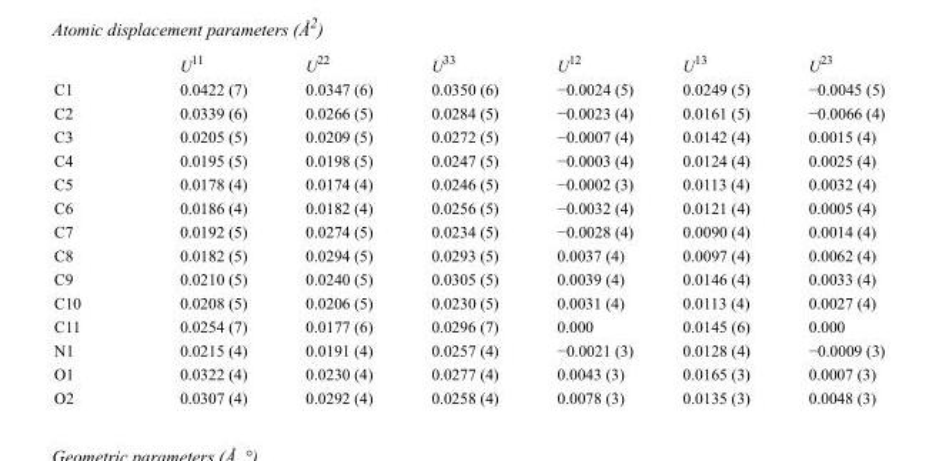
<table><thead><tr><td></td><td>U<sup>11</sup></td><td>U<sup>22</sup></td><td>U<sup>33</sup></td><td>U<sup>12</sup></td><td>U<sup>13</sup></td><td>U<sup>23</sup></td></tr></thead><tbody><tr><td>C1</td><td>0.0422 (7)</td><td>0.0347 (6)</td><td>0.0350 (6)</td><td>−0.0024 (5)</td><td>0.0249 (5)</td><td>−0.0045 (5)</td></tr><tr><td>C2</td><td>0.0339 (6)</td><td>0.0266 (5)</td><td>0.0284 (5)</td><td>−0.0023 (4)</td><td>0.0161 (5)</td><td>−0.0066 (4)</td></tr><tr><td>C3</td><td>0.0205 (5)</td><td>0.0209 (5)</td><td>0.0272 (5)</td><td>−0.0007 (4)</td><td>0.0142 (4)</td><td>0.0015 (4)</td></tr><tr><td>C4</td><td>0.0195 (5)</td><td>0.0198 (5)</td><td>0.0247 (5)</td><td>−0.0003 (4)</td><td>0.0124 (4)</td><td>0.0025 (4)</td></tr><tr><td>C5</td><td>0.0178 (4)</td><td>0.0174 (4)</td><td>0.0246 (5)</td><td>−0.0002 (3)</td><td>0.0113 (4)</td><td>0.0032 (4)</td></tr><tr><td>C6</td><td>0.0186 (4)</td><td>0.0182 (4)</td><td>0.0256 (5)</td><td>−0.0032 (4)</td><td>0.0121 (4)</td><td>0.0005 (4)</td></tr><tr><td>C7</td><td>0.0192 (5)</td><td>0.0274 (5)</td><td>0.0234 (5)</td><td>−0.0028 (4)</td><td>0.0090 (4)</td><td>0.0014 (4)</td></tr><tr><td>C8</td><td>0.0182 (5)</td><td>0.0294 (5)</td><td>0.0293 (5)</td><td>0.0037 (4)</td><td>0.0097 (4)</td><td>0.0062 (4)</td></tr><tr><td>C9</td><td>0.0210 (5)</td><td>0.0240 (5)</td><td>0.0305 (5)</td><td>0.0039 (4)</td><td>0.0146 (4)</td><td>0.0033 (4)</td></tr><tr><td>C10</td><td>0.0208 (5)</td><td>0.0206 (5)</td><td>0.0230 (5)</td><td>0.0031 (4)</td><td>0.0113 (4)</td><td>0.0027 (4)</td></tr><tr><td>C11</td><td>0.0254 (7)</td><td>0.0177 (6)</td><td>0.0296 (7)</td><td>0.000</td><td>0.0145 (6)</td><td>0.000</td></tr><tr><td>N1</td><td>0.0215 (4)</td><td>0.0191 (4)</td><td>0.0257 (4)</td><td>−0.0021 (3)</td><td>0.0128 (4)</td><td>−0.0009 (3)</td></tr><tr><td>O1</td><td>0.0322 (4)</td><td>0.0230 (4)</td><td>0.0277 (4)</td><td>0.0043 (3)</td><td>0.0165 (3)</td><td>0.0007 (3)</td></tr><tr><td>O2</td><td>0.0307 (4)</td><td>0.0292 (4)</td><td>0.0258 (4)</td><td>0.0078 (3)</td><td>0.0135 (3)</td><td>0.0048 (3)</td></tr></tbody></table>